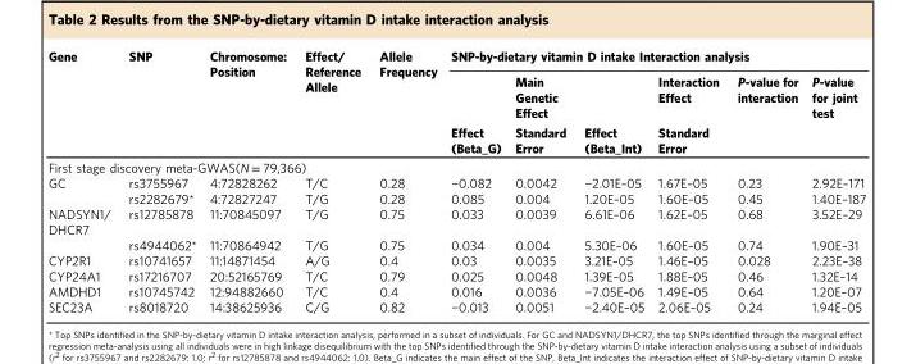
<table><thead><tr><td rowspan="3">Gene</td><td rowspan="3">SNP</td><td rowspan="3">Chromosome: Position</td><td rowspan="3">Effect/ Reference Allele</td><td rowspan="3">Allele Frequency</td><td colspan="6">SNP-by-dietary vitamin D intake Interaction analysis</td></tr><tr><td rowspan="2">Effect (Beta_G)</td><td rowspan="2">Main Genetic Effect Standard Error</td><td rowspan="2">Effect (Beta_Int)</td><td rowspan="2">Interaction Effect Standard Error</td><td rowspan="2">P-value for interaction</td><td rowspan="2">P-value for joint test</td></tr><tr></tr></thead><tbody><tr><td colspan="11">First stage discovery meta-GWAS(N = 79,366)</td></tr><tr><td rowspan="2">GC</td><td>rs3755967</td><td>4:72828262</td><td>T/C</td><td>0.28</td><td>−0.082</td><td>0.0042</td><td>−2.01E–05</td><td>1.67E–05</td><td>0.23</td><td>2.92E–171</td></tr><tr><td>rs2282679*</td><td>4:72827247</td><td>T/G</td><td>0.28</td><td>0.085</td><td>0.004</td><td>1.20E–05</td><td>1.60E–05</td><td>0.45</td><td>1.40E–187</td></tr><tr><td rowspan="2">NADSYN1/ DHCR7</td><td>rs12785878</td><td>11:70845097</td><td>T/G</td><td>0.75</td><td>0.033</td><td>0.0039</td><td>6.61E–06</td><td>1.62E–05</td><td>0.68</td><td>3.52E–29</td></tr><tr><td>rs4944062*</td><td>11:70864942</td><td>T/G</td><td>0.75</td><td>0.034</td><td>0.004</td><td>5.30E–06</td><td>1.60E–05</td><td>0.74</td><td>1.90E–31</td></tr><tr><td>CYP2R1</td><td>rs10741657</td><td>11:14871454</td><td>A/G</td><td>0.4</td><td>0.03</td><td>0.0035</td><td>3.21E–05</td><td>1.46E–05</td><td>0.028</td><td>2.23E–38</td></tr><tr><td>CYP24A1</td><td>rs17216707</td><td>20:52165769</td><td>T/C</td><td>0.79</td><td>0.025</td><td>0.0048</td><td>1.39E–05</td><td>1.88E–05</td><td>0.46</td><td>1.32E–14</td></tr><tr><td>AMDHD1</td><td>rs10745742</td><td>12:94882660</td><td>T/C</td><td>0.4</td><td>0.016</td><td>0.0036</td><td>−7.05E–06</td><td>1.49E–05</td><td>0.64</td><td>1.20E–07</td></tr><tr><td>SEC23A</td><td>rs8018720</td><td>14:38625936</td><td>C/G</td><td>0.82</td><td>−0.013</td><td>0.0051</td><td>−2.40E–05</td><td>2.06E–05</td><td>0.24</td><td>1.94E–05</td></tr></tbody></table>